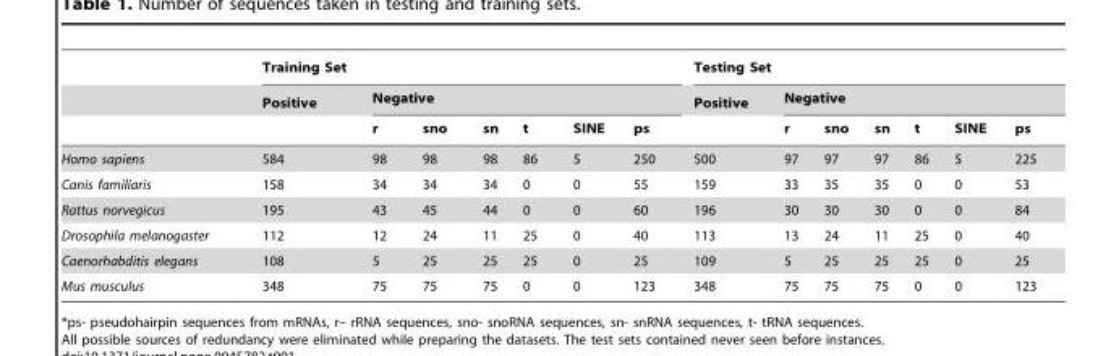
<table><thead><tr><td rowspan="3"></td><td colspan="7">Training Set</td><td colspan="7">Testing Set</td></tr><tr><td rowspan="2">Positive</td><td colspan="6">Negative</td><td rowspan="2">Positive</td><td colspan="6">Negative</td></tr><tr><td>r</td><td>sno</td><td>sn</td><td>t</td><td>SINE</td><td>ps</td><td>r</td><td>sno</td><td>sn</td><td>t</td><td>SINE</td><td>ps</td></tr></thead><tbody><tr><td>Homo sapiens</td><td>584</td><td>98</td><td>98</td><td>98</td><td>86</td><td>5</td><td>250</td><td>500</td><td>97</td><td>97</td><td>97</td><td>86</td><td>5</td><td>225</td></tr><tr><td>Canis familiaris</td><td>158</td><td>34</td><td>34</td><td>34</td><td>0</td><td>0</td><td>55</td><td>159</td><td>33</td><td>35</td><td>35</td><td>0</td><td>0</td><td>53</td></tr><tr><td>Rattus norvegicus</td><td>195</td><td>43</td><td>45</td><td>44</td><td>0</td><td>0</td><td>60</td><td>196</td><td>30</td><td>30</td><td>30</td><td>0</td><td>0</td><td>84</td></tr><tr><td>Drosophila melanogaster</td><td>112</td><td>12</td><td>24</td><td>11</td><td>25</td><td>0</td><td>40</td><td>113</td><td>13</td><td>24</td><td>11</td><td>25</td><td>0</td><td>40</td></tr><tr><td>Caenorhabditis elegans</td><td>108</td><td>5</td><td>25</td><td>25</td><td>25</td><td>0</td><td>25</td><td>109</td><td>5</td><td>25</td><td>25</td><td>25</td><td>0</td><td>25</td></tr><tr><td>Mus musculus</td><td>348</td><td>75</td><td>75</td><td>75</td><td>0</td><td>0</td><td>123</td><td>348</td><td>75</td><td>75</td><td>75</td><td>0</td><td>0</td><td>123</td></tr></tbody></table>